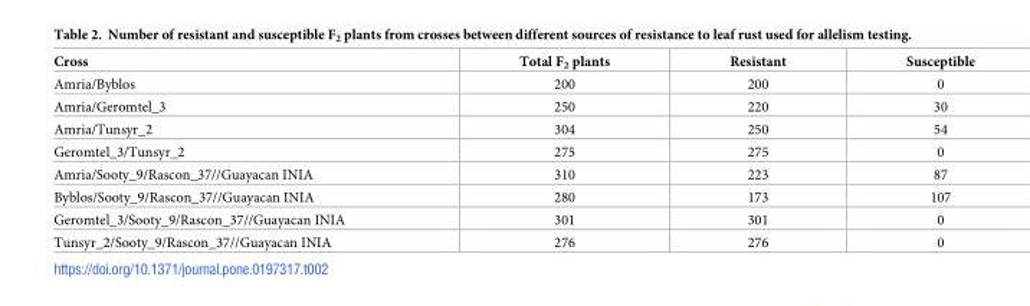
<table><thead><tr><td>Cross</td><td>Total F<sub>2</sub> plants</td><td>Resistant</td><td>Susceptible</td></tr></thead><tbody><tr><td>Amria/Byblos</td><td>200</td><td>200</td><td>0</td></tr><tr><td>Amria/Geromtel_3</td><td>250</td><td>220</td><td>30</td></tr><tr><td>Amria/Tunsyr_2</td><td>304</td><td>250</td><td>54</td></tr><tr><td>Geromtel_3/Tunsyr_2</td><td>275</td><td>275</td><td>0</td></tr><tr><td>Amria/Sooty_9/Rascon_37//Guayacan INIA</td><td>310</td><td>223</td><td>87</td></tr><tr><td>Byblos/Sooty_9/Rascon_37//Guayacan INIA</td><td>280</td><td>173</td><td>107</td></tr><tr><td>Geromtel_3/Sooty_9/Rascon_37//Guayacan INIA</td><td>301</td><td>301</td><td>0</td></tr><tr><td>Tunsyr_2/Sooty_9/Rascon_37//Guayacan INIA</td><td>276</td><td>276</td><td>0</td></tr></tbody></table>